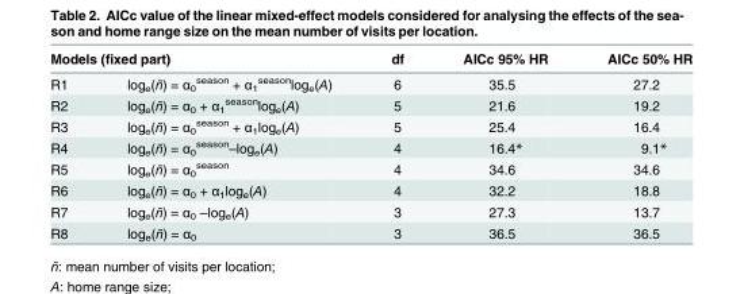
<table><thead><tr><td colspan="2">Models (fixed part)</td><td rowspan="2">df 6</td><td rowspan="2">AICc 95% HR 35.5</td><td rowspan="2">AICc 50% HR 27.2</td></tr><tr><td>R1</td><td>log<sub>e</sub>(ñ) = α<sub>0</sub> <sup>season</sup> + α<sub>1</sub> <sup>season</sup>log<sub>e</sub>(A)</td></tr></thead><tbody><tr><td>R2</td><td>log<sub>e</sub>(ñ) = α<sub>0</sub> + α<sub>1</sub> <sup>season</sup>log<sub>e</sub>(A)</td><td>5</td><td>21.6</td><td>19.2</td></tr><tr><td>R3</td><td>log<sub>e</sub>(ñ) = α<sub>0</sub> <sup>season</sup> + α<sub>1</sub>log<sub>e</sub>(A)</td><td>5</td><td>25.4</td><td>16.4</td></tr><tr><td>R4</td><td>log<sub>e</sub>(ñ) = α<sub>0</sub> <sup>season</sup>–log<sub>e</sub>(A)</td><td>4</td><td>16.4*</td><td>9.1*</td></tr><tr><td>R5</td><td>log<sub>e</sub>(ñ) = α<sub>0</sub> <sup>season</sup></td><td>4</td><td>34.6</td><td>34.6</td></tr><tr><td>R6</td><td>log<sub>e</sub>(ñ) = α<sub>0</sub> + α<sub>1</sub>log<sub>e</sub>(A)</td><td>4</td><td>32.2</td><td>18.8</td></tr><tr><td>R7</td><td>log<sub>e</sub>(ñ) = α<sub>0</sub> –log<sub>e</sub>(A)</td><td>3</td><td>27.3</td><td>13.7</td></tr><tr><td>R8</td><td>log<sub>e</sub>(ñ) = α<sub>0</sub></td><td>3</td><td>36.5</td><td>36.5</td></tr></tbody></table>